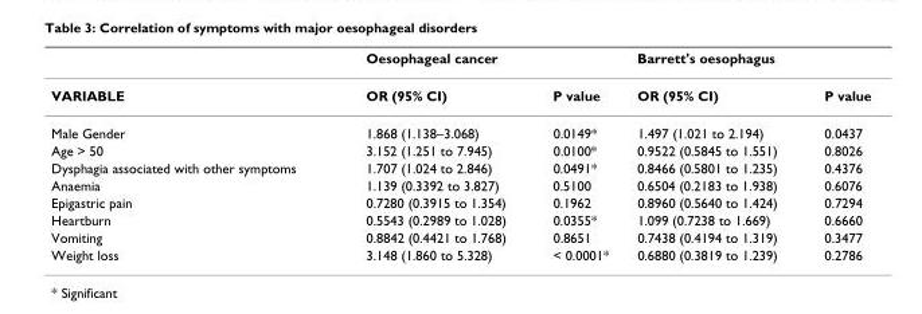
<table><thead><tr><td rowspan="2">VARIABLE</td><td colspan="2">Oesophageal cancer</td><td colspan="2">Barrett&#x27;s oesophagus</td></tr><tr><td>OR (95% CI)</td><td>P value</td><td>OR (95% CI)</td><td>P value</td></tr></thead><tbody><tr><td>Male Gender</td><td>1.868 (1.138–3.068)</td><td>0.0149*</td><td>1.497 (1.021 to 2.194)</td><td>0.0437</td></tr><tr><td>Age &gt; 50</td><td>3.152 (1.251 to 7.945)</td><td>0.0100*</td><td>0.9522 (0.5845 to 1.551)</td><td>0.8026</td></tr><tr><td>Dysphagia associated with other symptoms</td><td>1.707 (1.024 to 2.846)</td><td>0.0491*</td><td>0.8466 (0.5801 to 1.235)</td><td>0.4376</td></tr><tr><td>Anaemia</td><td>1.139 (0.3392 to 3.827)</td><td>0.5100</td><td>0.6504 (0.2183 to 1.938)</td><td>0.6076</td></tr><tr><td>Epigastric pain</td><td>0.7280 (0.3915 to 1.354)</td><td>0.1962</td><td>0.8960 (0.5640 to 1.424)</td><td>0.7294</td></tr><tr><td>Heartburn</td><td>0.5543 (0.2989 to 1.028)</td><td>0.0355*</td><td>1.099 (0.7238 to 1.669)</td><td>0.6660</td></tr><tr><td>Vomiting</td><td>0.8842 (0.4421 to 1.768)</td><td>0.8651</td><td>0.7438 (0.4194 to 1.319)</td><td>0.3477</td></tr><tr><td>Weight loss</td><td>3.148 (1.860 to 5.328)</td><td>&lt; 0.0001*</td><td>0.6880 (0.3819 to 1.239)</td><td>0.2786</td></tr></tbody></table>